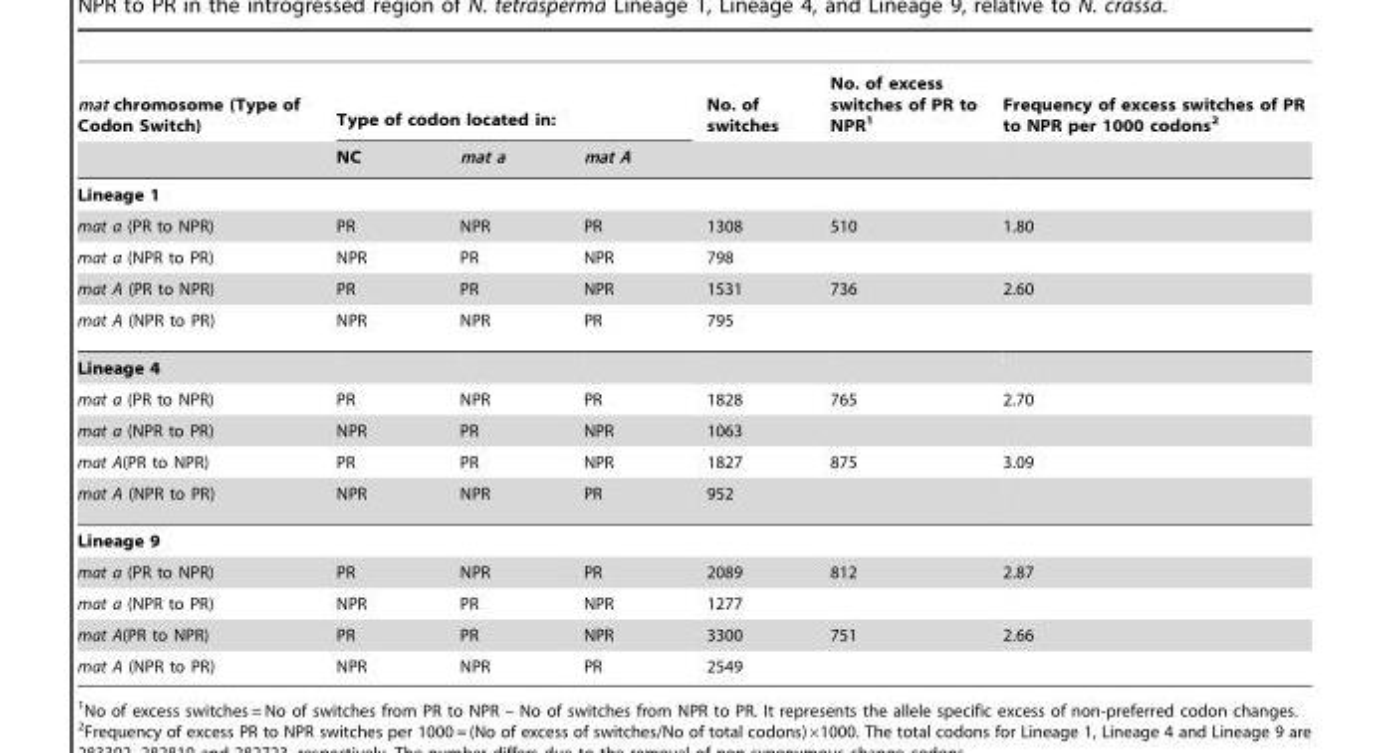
<table><thead><tr><td rowspan="2">mat chromosome (Type of Codon Switch)</td><td colspan="3">Type of codon located in:</td><td rowspan="2">No. of switches</td><td rowspan="2">No. of excess switches of PR to NPR<sup>1</sup></td><td rowspan="2">Frequency of excess switches of PR to NPR per 1000 codons<sup>2</sup></td></tr><tr><td>NC</td><td>mat a</td><td>mat A</td></tr></thead><tbody><tr><td colspan="7">Lineage 1</td></tr><tr><td>mat a (PR to NPR)</td><td>PR</td><td>NPR</td><td>PR</td><td>1308</td><td>510</td><td>1.80</td></tr><tr><td>mat a (NPR to PR)</td><td>NPR</td><td>PR</td><td>NPR</td><td>798</td><td></td><td></td></tr><tr><td>mat A (PR to NPR)</td><td>PR</td><td>PR</td><td>NPR</td><td>1531</td><td>736</td><td>2.60</td></tr><tr><td>mat A (NPR to PR)</td><td>NPR</td><td>NPR</td><td>PR</td><td>795</td><td></td><td></td></tr><tr><td colspan="7">Lineage 4</td></tr><tr><td>mat a (PR to NPR)</td><td>PR</td><td>NPR</td><td>PR</td><td>1828</td><td>765</td><td>2.70</td></tr><tr><td>mat a (NPR to PR)</td><td>NPR</td><td>PR</td><td>NPR</td><td>1063</td><td></td><td></td></tr><tr><td>mat A(PR to NPR)</td><td>PR</td><td>PR</td><td>NPR</td><td>1827</td><td>875</td><td>3.09</td></tr><tr><td>mat A (NPR to PR)</td><td>NPR</td><td>NPR</td><td>PR</td><td>952</td><td></td><td></td></tr><tr><td colspan="7">Lineage 9</td></tr><tr><td>mat a (PR to NPR)</td><td>PR</td><td>NPR</td><td>PR</td><td>2089</td><td>812</td><td>2.87</td></tr><tr><td>mat a (NPR to PR)</td><td>NPR</td><td>PR</td><td>NPR</td><td>1277</td><td></td><td></td></tr><tr><td>mat A(PR to NPR)</td><td>PR</td><td>PR</td><td>NPR</td><td>3300</td><td>751</td><td>2.66</td></tr><tr><td>mat A (NPR to PR)</td><td>NPR</td><td>NPR</td><td>PR</td><td>2549</td><td></td><td></td></tr></tbody></table>